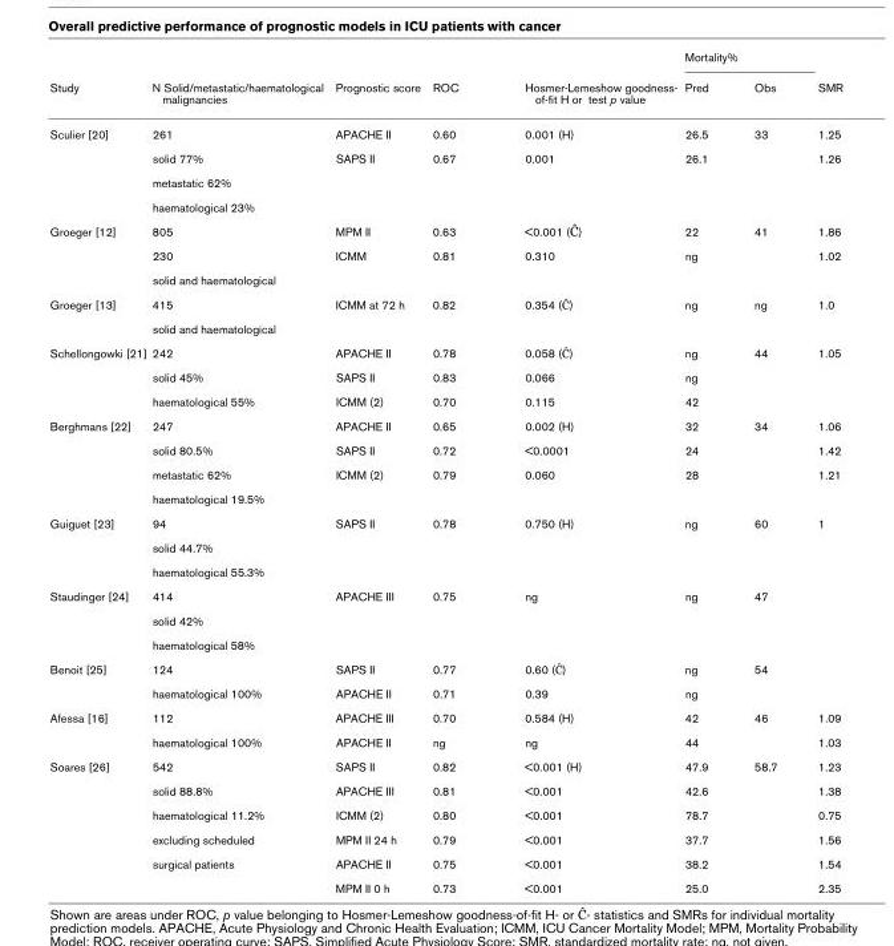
<table><thead><tr><td rowspan="2">Study</td><td rowspan="2">N Solid/metastatic/haematological malignancies</td><td rowspan="2">Prognostic score</td><td rowspan="2">ROC</td><td rowspan="2">Hosmer-Lemeshow goodness- of-fit H or test p value</td><td colspan="2">Mortality%</td><td rowspan="2">SMR</td></tr><tr><td>Pred</td><td>Obs</td></tr></thead><tbody><tr><td rowspan="4">Sculier [20]</td><td>261</td><td>APACHE II</td><td>0.60</td><td>0.001 (H)</td><td>26.5</td><td>33</td><td>1.25</td></tr><tr><td>solid 77%</td><td>SAPS II</td><td>0.67</td><td>0.001</td><td>26.1</td><td></td><td>1.26</td></tr><tr><td>metastatic 62%</td><td></td><td></td><td></td><td></td><td></td><td></td></tr><tr><td>haematological 23%</td><td></td><td></td><td></td><td></td><td></td><td></td></tr><tr><td rowspan="3">Groeger [12]</td><td>805</td><td>MPM II</td><td>0.63</td><td>&lt;0.001 (Ĉ)</td><td>22</td><td>41</td><td>1.86</td></tr><tr><td>230</td><td>ICMM</td><td>0.81</td><td>0.310</td><td>ng</td><td></td><td>1.02</td></tr><tr><td>solid and haematological</td><td></td><td></td><td></td><td></td><td></td><td></td></tr><tr><td rowspan="2">Groeger [13]</td><td>415</td><td>ICMM at 72 h</td><td>0.82</td><td>0.354 (Ĉ)</td><td>ng</td><td>ng</td><td>1.0</td></tr><tr><td>solid and haematological</td><td></td><td></td><td></td><td></td><td></td><td></td></tr><tr><td rowspan="3">Schellongowki [21]</td><td>242</td><td>APACHE II</td><td>0.78</td><td>0.058 (Ĉ)</td><td>ng</td><td>44</td><td>1.05</td></tr><tr><td>solid 45%</td><td>SAPS II</td><td>0.83</td><td>0.066</td><td>ng</td><td></td><td></td></tr><tr><td>haematological 55%</td><td>ICMM (2)</td><td>0.70</td><td>0.115</td><td>42</td><td></td><td></td></tr><tr><td rowspan="4">Berghmans [22]</td><td>247</td><td>APACHE II</td><td>0.65</td><td>0.002 (H)</td><td>32</td><td>34</td><td>1.06</td></tr><tr><td>solid 80.5%</td><td>SAPS II</td><td>0.72</td><td>&lt;0.0001</td><td>24</td><td></td><td>1.42</td></tr><tr><td>metastatic 62%</td><td>ICMM (2)</td><td>0.79</td><td>0.060</td><td>28</td><td></td><td>1.21</td></tr><tr><td>haematological 19.5%</td><td></td><td></td><td></td><td></td><td></td><td></td></tr><tr><td rowspan="3">Guiguet [23]</td><td>94</td><td>SAPS II</td><td>0.78</td><td>0.750 (H)</td><td>ng</td><td>60</td><td>1</td></tr><tr><td>solid 44.7%</td><td></td><td></td><td></td><td></td><td></td><td></td></tr><tr><td>haematological 55.3%</td><td></td><td></td><td></td><td></td><td></td><td></td></tr><tr><td rowspan="3">Staudinger [24]</td><td>414</td><td>APACHE III</td><td>0.75</td><td>ng</td><td>ng</td><td>47</td><td></td></tr><tr><td>solid 42%</td><td></td><td></td><td></td><td></td><td></td><td></td></tr><tr><td>haematological 58%</td><td></td><td></td><td></td><td></td><td></td><td></td></tr><tr><td rowspan="2">Benoit [25]</td><td>124</td><td>SAPS II</td><td>0.77</td><td>0.60 (Ĉ)</td><td>ng</td><td>54</td><td></td></tr><tr><td>haematological 100%</td><td>APACHE II</td><td>0.71</td><td>0.39</td><td>ng</td><td></td><td></td></tr><tr><td rowspan="2">Afessa [16]</td><td>112</td><td>APACHE III</td><td>0.70</td><td>0.584 (H)</td><td>42</td><td>46</td><td>1.09</td></tr><tr><td>haematological 100%</td><td>APACHE II</td><td>ng</td><td>ng</td><td>44</td><td></td><td>1.03</td></tr><tr><td rowspan="6">Soares [26]</td><td>542</td><td>SAPS II</td><td>0.82</td><td>&lt;0.001 (H)</td><td>47.9</td><td>58.7</td><td>1.23</td></tr><tr><td>solid 88.8%</td><td>APACHE III</td><td>0.81</td><td>&lt;0.001</td><td>42.6</td><td></td><td>1.38</td></tr><tr><td>haematological 11.2%</td><td>ICMM (2)</td><td>0.80</td><td>&lt;0.001</td><td>78.7</td><td></td><td>0.75</td></tr><tr><td>excluding scheduled</td><td>MPM II 24 h</td><td>0.79</td><td>&lt;0.001</td><td>37.7</td><td></td><td>1.56</td></tr><tr><td>surgical patients</td><td>APACHE II</td><td>0.75</td><td>&lt;0.001</td><td>38.2</td><td></td><td>1.54</td></tr><tr><td></td><td>MPM II 0 h</td><td>0.73</td><td>&lt;0.001</td><td>25.0</td><td></td><td>2.35</td></tr></tbody></table>